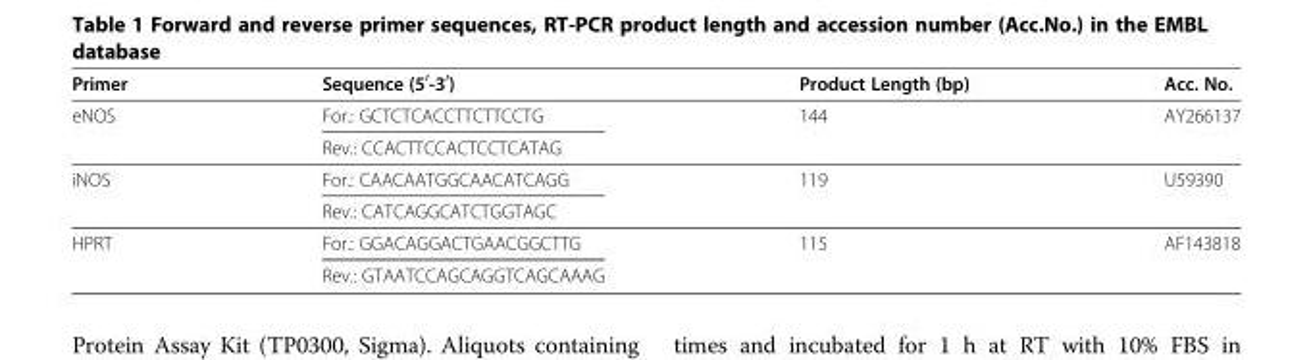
<table><thead><tr><td>Primer</td><td>Sequence (5<sup>′</sup>-3<sup>′</sup>)</td><td>Product Length (bp)</td><td>Acc. No.</td></tr></thead><tbody><tr><td rowspan="2">eNOS</td><td>For.: GCTCTCACCTTCTTCCTG</td><td rowspan="2">144</td><td rowspan="2">AY266137</td></tr><tr><td>Rev.: CCACTTCCACTCCTCATAG</td></tr><tr><td rowspan="2">iNOS</td><td>For.: CAACAATGGCAACATCAGG</td><td rowspan="2">119</td><td rowspan="2">U59390</td></tr><tr><td>Rev.: CATCAGGCATCTGGTAGC</td></tr><tr><td rowspan="2">HPRT</td><td>For.: GGACAGGACTGAACGGCTTG</td><td rowspan="2">115</td><td rowspan="2">AF143818</td></tr><tr><td>Rev.: GTAATCCAGCAGGTCAGCAAAG</td></tr></tbody></table>